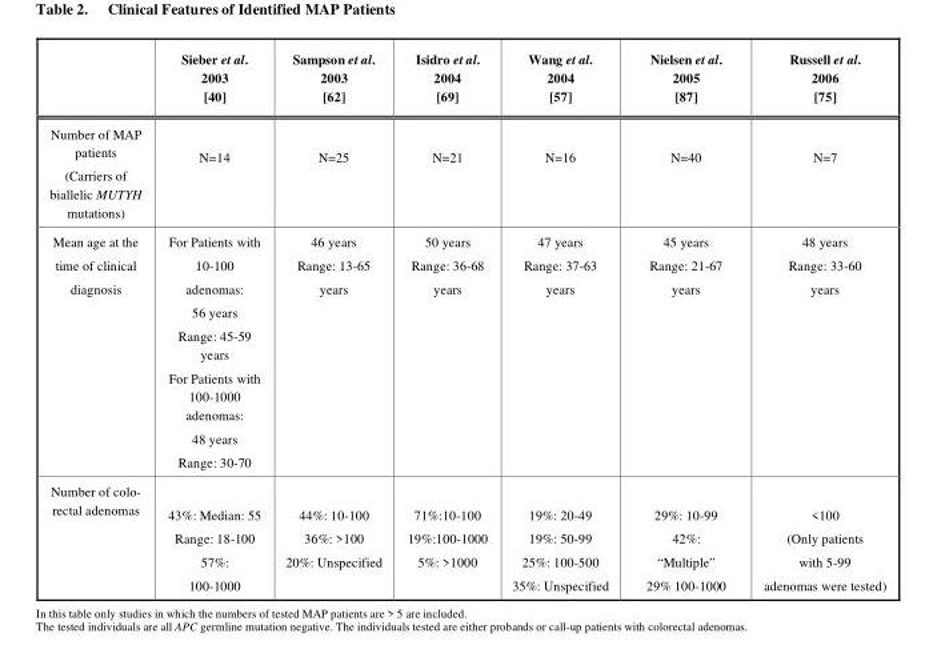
<table><thead><tr><td></td><td>Sieber et al. 2003 [40]</td><td>Sampson et al. 2003 [62]</td><td>Isidro et al. 2004 [69]</td><td>Wang et al. 2004 [57]</td><td>Nielsen et al. 2005 [87]</td><td>Russell et al. 2006 [75]</td></tr></thead><tbody><tr><td>Number of MAP patients (Carriers of biallelic MUTYH mutations)</td><td>N=14</td><td>N=25</td><td>N=21</td><td>N=16</td><td>N=40</td><td>N=7</td></tr><tr><td>Mean age at the time of clinical diagnosis</td><td>For Patients with 10-100 adenomas: 56 years Range: 45-59 years For Patients with 100-1000 adenomas: 48 years Range: 30-70</td><td>46 years Range: 13-65 years</td><td>50 years Range: 36-68 years</td><td>47 years Range: 37-63 years</td><td>45 years Range: 21-67 years</td><td>48 years Range: 33-60 years</td></tr><tr><td>Number of colo- rectal adenomas</td><td>43%: Median: 55 Range: 18-100 57%: 100-1000</td><td>44%: 10-100 36%: &gt;100 20%: Unspecified</td><td>71%:10-100 19%:100-1000 5%: &gt;1000</td><td>19%: 20-49 19%: 50-99 25%: 100-500 35%: Unspecified</td><td>29%: 10-99 42%: “Multiple” 29% 100-1000</td><td>&lt;100 (Only patients with 5-99 adenomas were tested)</td></tr></tbody></table>